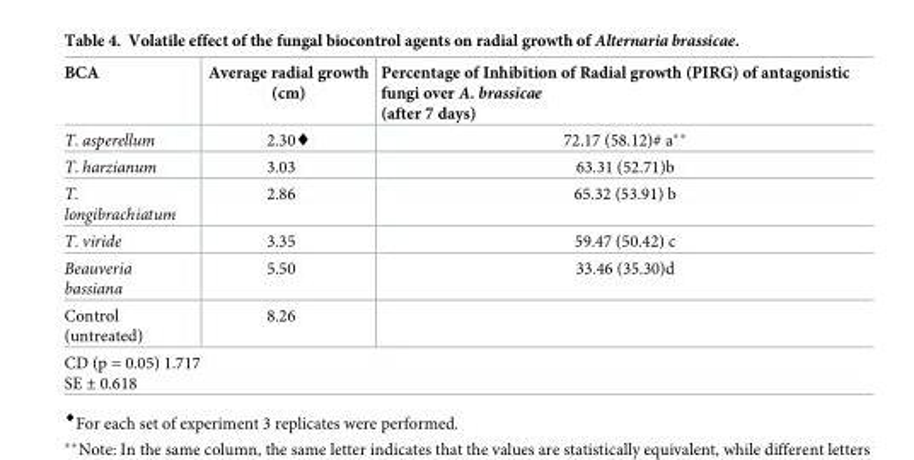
<table><thead><tr><td>BCA</td><td>Average radial growth (cm)</td><td>Percentage of Inhibition of Radial growth (PIRG) of antagonistic fungi over A. brassicae (after 7 days)</td></tr></thead><tbody><tr><td>T. asperellum</td><td>2.30♦</td><td>72.17 (58.12)# a**</td></tr><tr><td>T. harzianum</td><td>3.03</td><td>63.31 (52.71)b</td></tr><tr><td>T. longibrachiatum</td><td>2.86</td><td>65.32 (53.91) b</td></tr><tr><td>T. viride</td><td>3.35</td><td>59.47 (50.42) c</td></tr><tr><td>Beauveria bassiana</td><td>5.50</td><td>33.46 (35.30)d</td></tr><tr><td>Control (untreated)</td><td>8.26</td><td></td></tr><tr><td colspan="3">CD (p = 0.05) 1.717 SE ± 0.618</td></tr></tbody></table>